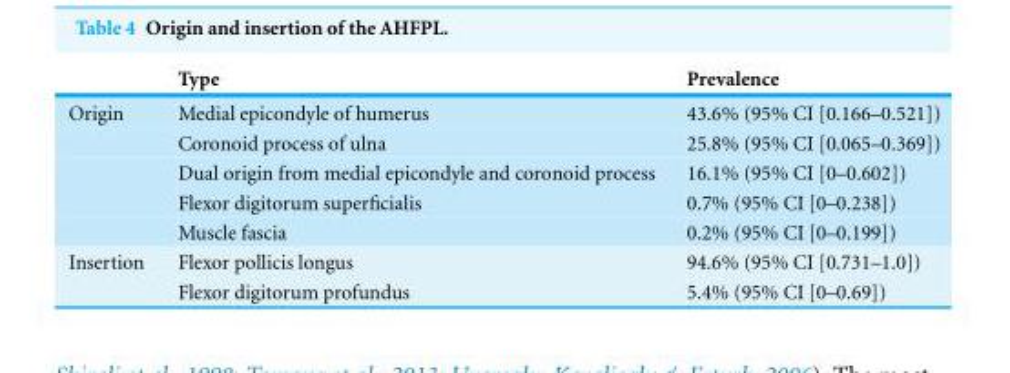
<table><thead><tr><td></td><td>Type</td><td>Prevalence</td></tr></thead><tbody><tr><td rowspan="5">Origin</td><td>Medial epicondyle of humerus</td><td>43.6% (95% CI [0.166–0.521])</td></tr><tr><td>Coronoid process of ulna</td><td>25.8% (95% CI [0.065–0.369])</td></tr><tr><td>Dual origin from medial epicondyle and coronoid process</td><td>16.1% (95% CI [0–0.602])</td></tr><tr><td>Flexor digitorum superficialis</td><td>0.7% (95% CI [0–0.238])</td></tr><tr><td>Muscle fascia</td><td>0.2% (95% CI [0–0.199])</td></tr><tr><td rowspan="2">Insertion</td><td>Flexor pollicis longus</td><td>94.6% (95% CI [0.731–1.0])</td></tr><tr><td>Flexor digitorum profundus</td><td>5.4% (95% CI [0–0.69])</td></tr></tbody></table>